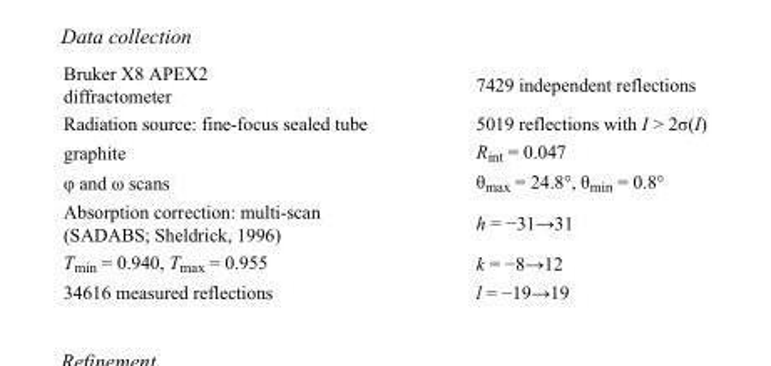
<table><tbody><tr><td>Bruker X8 APEX2 diffractometer</td><td>7429 independent reflections</td></tr><tr><td>Radiation source: fine-focus sealed tube</td><td>5019 reflections with I &gt; 2σ(I)</td></tr><tr><td>graphite</td><td>R<sub>int</sub> = 0.047</td></tr><tr><td>φ and ω scans</td><td>θ<sub>max</sub> = 24.8°, θ<sub>min</sub> = 0.8°</td></tr><tr><td>Absorption correction: multi-scan (SADABS; Sheldrick, 1996)</td><td>h = −31→31</td></tr><tr><td>T<sub>min</sub> = 0.940, T<sub>max</sub> = 0.955</td><td>k = −8→12</td></tr><tr><td>34616 measured reflections</td><td>l = −19→19</td></tr></tbody></table>